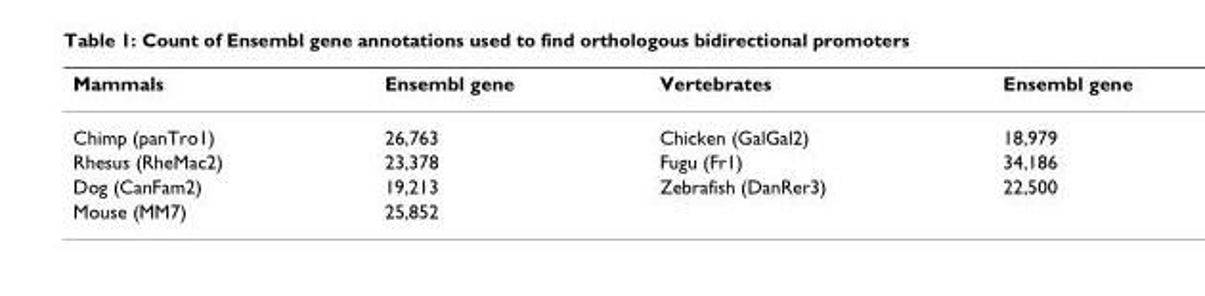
<table><thead><tr><td>Mammals</td><td>Ensembl gene</td><td>Vertebrates</td><td>Ensembl gene</td></tr></thead><tbody><tr><td>Chimp (panTro1)</td><td>26,763</td><td>Chicken (GalGal2)</td><td>18,979</td></tr><tr><td>Rhesus (RheMac2)</td><td>23,378</td><td>Fugu (Fr1)</td><td>34,186</td></tr><tr><td>Dog (CanFam2)</td><td>19,213</td><td>Zebrafish (DanRer3)</td><td>22,500</td></tr><tr><td>Mouse (MM7)</td><td>25,852</td><td></td><td></td></tr></tbody></table>